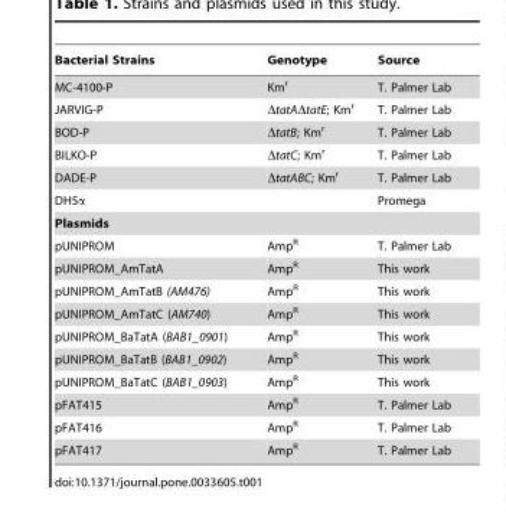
<table><thead><tr><td>Bacterial Strains</td><td>Genotype</td><td>Source</td></tr></thead><tbody><tr><td>MC-4100-P</td><td>Km<sup>r</sup></td><td>T. Palmer Lab</td></tr><tr><td>JARVIG-P</td><td>ΔtatAΔtatE; Km<sup>r</sup></td><td>T. Palmer Lab</td></tr><tr><td>BOD-P</td><td>ΔtatB; Km<sup>r</sup></td><td>T. Palmer Lab</td></tr><tr><td>BILKO-P</td><td>ΔtatC; Km<sup>r</sup></td><td>T. Palmer Lab</td></tr><tr><td>DADE-P</td><td>ΔtatABC; Km<sup>r</sup></td><td>T. Palmer Lab</td></tr><tr><td>DH5α</td><td></td><td>Promega</td></tr><tr><td colspan="3">Plasmids</td></tr><tr><td>pUNIPROM</td><td>Amp<sup>R</sup></td><td>T. Palmer Lab</td></tr><tr><td>pUNIPROM_AmTatA</td><td>Amp<sup>R</sup></td><td>This work</td></tr><tr><td>pUNIPROM_AmTatB (AM476)</td><td>Amp<sup>R</sup></td><td>This work</td></tr><tr><td>pUNIPROM_AmTatC (AM740)</td><td>Amp<sup>R</sup></td><td>This work</td></tr><tr><td>pUNIPROM_BaTatA (BAB1_0901)</td><td>Amp<sup>R</sup></td><td>This work</td></tr><tr><td>pUNIPROM_BaTatB (BAB1_0902)</td><td>Amp<sup>R</sup></td><td>This work</td></tr><tr><td>pUNIPROM_BaTatC (BAB1_0903)</td><td>Amp<sup>R</sup></td><td>This work</td></tr><tr><td>pFAT415</td><td>Amp<sup>R</sup></td><td>T. Palmer Lab</td></tr><tr><td>pFAT416</td><td>Amp<sup>R</sup></td><td>T. Palmer Lab</td></tr><tr><td>pFAT417</td><td>Amp<sup>R</sup></td><td>T. Palmer Lab</td></tr></tbody></table>